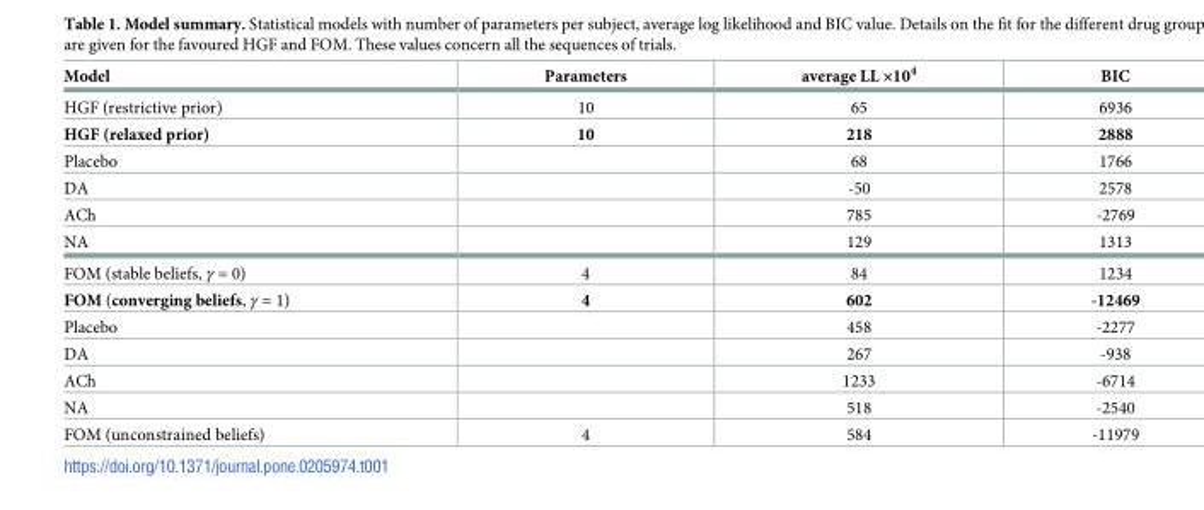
<table><thead><tr><td>Model</td><td>Parameters</td><td>average LL ×10<sup>4</sup></td><td>BIC</td></tr></thead><tbody><tr><td>HGF (restrictive prior)</td><td>10</td><td>65</td><td>6936</td></tr><tr><td>HGF (relaxed prior)</td><td>10</td><td>218</td><td>2888</td></tr><tr><td>Placebo</td><td></td><td>68</td><td>1766</td></tr><tr><td>DA</td><td></td><td>-50</td><td>2578</td></tr><tr><td>ACh</td><td></td><td>785</td><td>-2769</td></tr><tr><td>NA</td><td></td><td>129</td><td>1313</td></tr><tr><td>FOM (stable beliefs, γ = 0)</td><td>4</td><td>84</td><td>1234</td></tr><tr><td>FOM (converging beliefs, γ = 1)</td><td>4</td><td>602</td><td>-12469</td></tr><tr><td>Placebo</td><td></td><td>458</td><td>-2277</td></tr><tr><td>DA</td><td></td><td>267</td><td>-938</td></tr><tr><td>ACh</td><td></td><td>1233</td><td>-6714</td></tr><tr><td>NA</td><td></td><td>518</td><td>-2540</td></tr><tr><td>FOM (unconstrained beliefs)</td><td>4</td><td>584</td><td>-11979</td></tr></tbody></table>